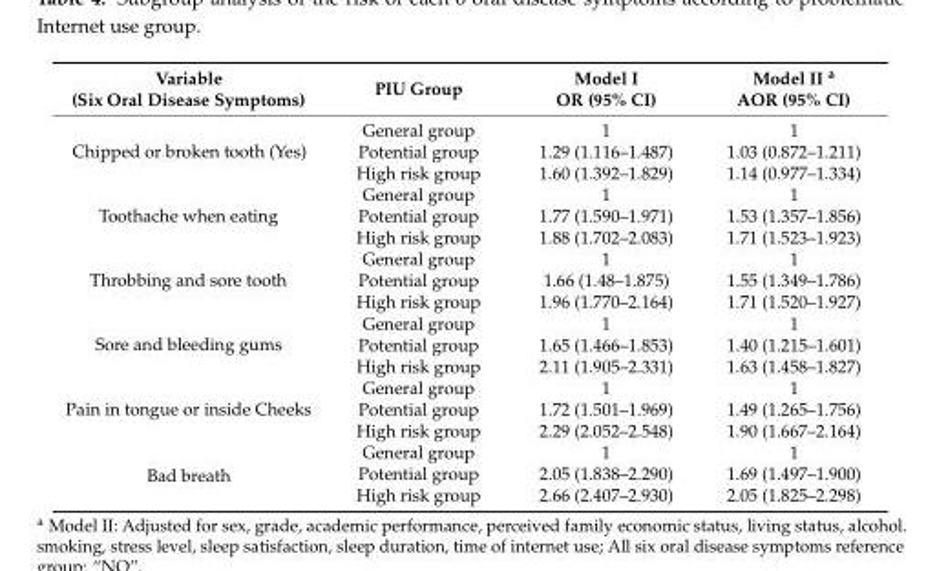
<table><thead><tr><td>Variable (Six Oral Disease Symptoms)</td><td>PIU Group</td><td>Model I OR (95% CI)</td><td>Model II <sup>a</sup> AOR (95% CI)</td></tr></thead><tbody><tr><td rowspan="3">Chipped or broken tooth (Yes)</td><td>General group</td><td>1</td><td>1</td></tr><tr><td>Potential group</td><td>1.29 (1.116–1.487)</td><td>1.03 (0.872–1.211)</td></tr><tr><td>High risk group</td><td>1.60 (1.392–1.829)</td><td>1.14 (0.977–1.334)</td></tr><tr><td rowspan="3">Toothache when eating</td><td>General group</td><td>1</td><td>1</td></tr><tr><td>Potential group</td><td>1.77 (1.590–1.971)</td><td>1.53 (1.357–1.856)</td></tr><tr><td>High risk group</td><td>1.88 (1.702–2.083)</td><td>1.71 (1.523–1.923)</td></tr><tr><td rowspan="3">Throbbing and sore tooth</td><td>General group</td><td>1</td><td>1</td></tr><tr><td>Potential group</td><td>1.66 (1.48–1.875)</td><td>1.55 (1.349–1.786)</td></tr><tr><td>High risk group</td><td>1.96 (1.770–2.164)</td><td>1.71 (1.520–1.927)</td></tr><tr><td rowspan="3">Sore and bleeding gums</td><td>General group</td><td>1</td><td>1</td></tr><tr><td>Potential group</td><td>1.65 (1.466–1.853)</td><td>1.40 (1.215–1.601)</td></tr><tr><td>High risk group</td><td>2.11 (1.905–2.331)</td><td>1.63 (1.458–1.827)</td></tr><tr><td rowspan="3">Pain in tongue or inside Cheeks</td><td>General group</td><td>1</td><td>1</td></tr><tr><td>Potential group</td><td>1.72 (1.501–1.969)</td><td>1.49 (1.265–1.756)</td></tr><tr><td>High risk group</td><td>2.29 (2.052–2.548)</td><td>1.90 (1.667–2.164)</td></tr><tr><td rowspan="3">Bad breath</td><td>General group</td><td>1</td><td>1</td></tr><tr><td>Potential group</td><td>2.05 (1.838–2.290)</td><td>1.69 (1.497–1.900)</td></tr><tr><td>High risk group</td><td>2.66 (2.407–2.930)</td><td>2.05 (1.825–2.298)</td></tr></tbody></table>